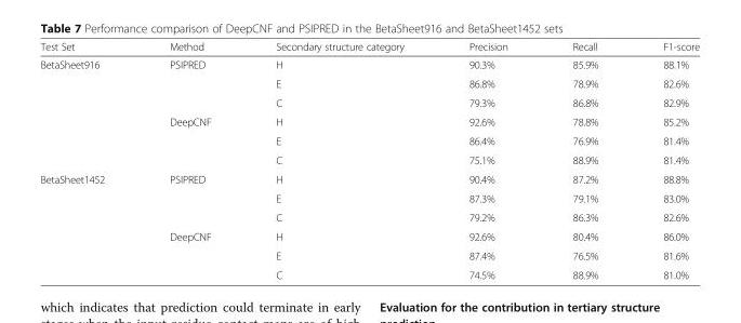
<table><thead><tr><td>Test Set</td><td>Method</td><td>Secondary structure category</td><td>Precision</td><td>Recall</td><td>F1-score</td></tr></thead><tbody><tr><td rowspan="6">BetaSheet916</td><td rowspan="3">PSIPRED</td><td>H</td><td>90.3%</td><td>85.9%</td><td>88.1%</td></tr><tr><td>E</td><td>86.8%</td><td>78.9%</td><td>82.6%</td></tr><tr><td>C</td><td>79.3%</td><td>86.8%</td><td>82.9%</td></tr><tr><td rowspan="3">DeepCNF</td><td>H</td><td>92.6%</td><td>78.8%</td><td>85.2%</td></tr><tr><td>E</td><td>86.4%</td><td>76.9%</td><td>81.4%</td></tr><tr><td>C</td><td>75.1%</td><td>88.9%</td><td>81.4%</td></tr><tr><td rowspan="6">BetaSheet1452</td><td rowspan="3">PSIPRED</td><td>H</td><td>90.4%</td><td>87.2%</td><td>88.8%</td></tr><tr><td>E</td><td>87.3%</td><td>79.1%</td><td>83.0%</td></tr><tr><td>C</td><td>79.2%</td><td>86.3%</td><td>82.6%</td></tr><tr><td rowspan="3">DeepCNF</td><td>H</td><td>92.6%</td><td>80.4%</td><td>86.0%</td></tr><tr><td>E</td><td>87.4%</td><td>76.5%</td><td>81.6%</td></tr><tr><td>C</td><td>74.5%</td><td>88.9%</td><td>81.0%</td></tr></tbody></table>